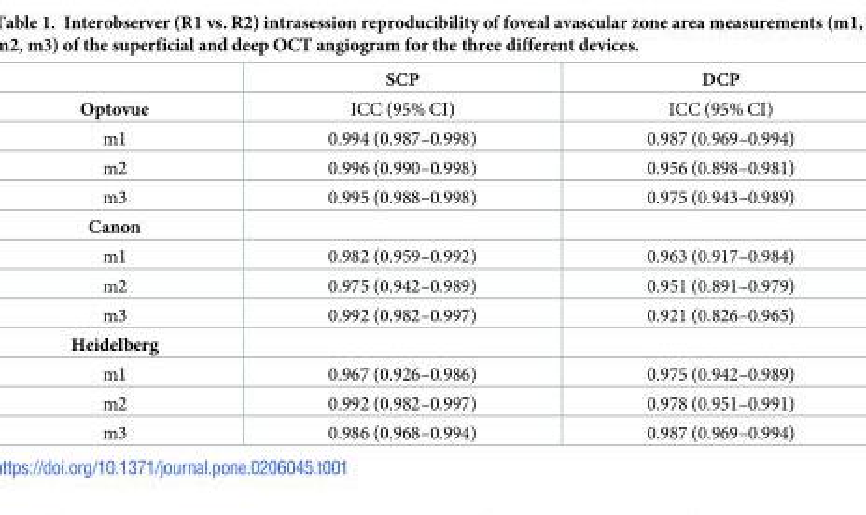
<table><thead><tr><td></td><td>SCP</td><td>DCP</td></tr></thead><tbody><tr><td>Optovue</td><td>ICC (95% CI)</td><td>ICC (95% CI)</td></tr><tr><td>m1</td><td>0.994 (0.987–0.998)</td><td>0.987 (0.969–0.994)</td></tr><tr><td>m2</td><td>0.996 (0.990–0.998)</td><td>0.956 (0.898–0.981)</td></tr><tr><td>m3</td><td>0.995 (0.988–0.998)</td><td>0.975 (0.943–0.989)</td></tr><tr><td colspan="3">Canon</td></tr><tr><td>m1</td><td>0.982 (0.959–0.992)</td><td>0.963 (0.917–0.984)</td></tr><tr><td>m2</td><td>0.975 (0.942–0.989)</td><td>0.951 (0.891–0.979)</td></tr><tr><td>m3</td><td>0.992 (0.982–0.997)</td><td>0.921 (0.826–0.965)</td></tr><tr><td colspan="3">Heidelberg</td></tr><tr><td>m1</td><td>0.967 (0.926–0.986)</td><td>0.975 (0.942–0.989)</td></tr><tr><td>m2</td><td>0.992 (0.982–0.997)</td><td>0.978 (0.951–0.991)</td></tr><tr><td>m3</td><td>0.986 (0.968–0.994)</td><td>0.987 (0.969–0.994)</td></tr></tbody></table>